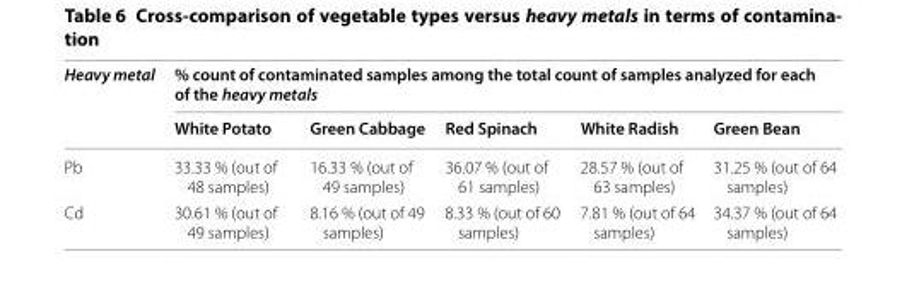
<table><thead><tr><td rowspan="2">Heavy metal</td><td colspan="5">% count of contaminated samples among the total count of samples analyzed for each of the heavy metals</td></tr><tr><td>White Potato</td><td>Green Cabbage</td><td>Red Spinach</td><td>White Radish</td><td>Green Bean</td></tr></thead><tbody><tr><td>Pb</td><td>33.33 % (out of 48 samples)</td><td>16.33 % (out of 49 samples)</td><td>36.07 % (out of 61 samples)</td><td>28.57 % (out of 63 samples)</td><td>31.25 % (out of 64 samples)</td></tr><tr><td>Cd</td><td>30.61 % (out of 49 samples)</td><td>8.16 % (out of 49 samples)</td><td>8.33 % (out of 60 samples)</td><td>7.81 % (out of 64 samples)</td><td>34.37 % (out of 64 samples)</td></tr></tbody></table>